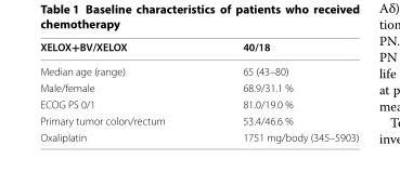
<table><thead><tr><td>XELOX+BV/XELOX</td><td>40/18</td></tr></thead><tbody><tr><td>Median age (range)</td><td>65 (43–80)</td></tr><tr><td>Male/female</td><td>68.9/31.1 %</td></tr><tr><td>ECOG PS 0/1</td><td>81.0/19.0 %</td></tr><tr><td>Primary tumor colon/rectum</td><td>53.4/46.6 %</td></tr><tr><td>Oxaliplatin</td><td>1751 mg/body (345–5903)</td></tr></tbody></table>